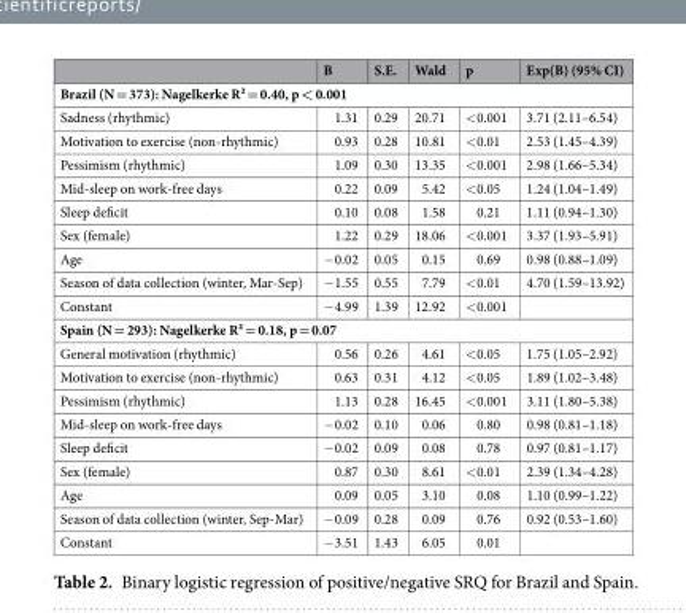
<table><thead><tr><td></td><td>B</td><td>S.E.</td><td>Wald</td><td>p</td><td>Exp(B) (95% CI)</td></tr></thead><tbody><tr><td colspan="6">Brazil (N = 373): Nagelkerke R² = 0.40, p &lt; 0.001</td></tr><tr><td>Sadness (rhythmic)</td><td>1.31</td><td>0.29</td><td>20.71</td><td>&lt;0.001</td><td>3.71 (2.11–6.54)</td></tr><tr><td>Motivation to exercise (non-rhythmic)</td><td>0.93</td><td>0.28</td><td>10.81</td><td>&lt;0.01</td><td>2.53 (1.45–4.39)</td></tr><tr><td>Pessimism (rhythmic)</td><td>1.09</td><td>0.30</td><td>13.35</td><td>&lt;0.001</td><td>2.98 (1.66–5.34)</td></tr><tr><td>Mid-sleep on work-free days</td><td>0.22</td><td>0.09</td><td>5.42</td><td>&lt;0.05</td><td>1.24 (1.04–1.49)</td></tr><tr><td>Sleep deficit</td><td>0.10</td><td>0.08</td><td>1.58</td><td>0.21</td><td>1.11 (0.94–1.30)</td></tr><tr><td>Sex (female)</td><td>1.22</td><td>0.29</td><td>18.06</td><td>&lt;0.001</td><td>3.37 (1.93–5.91)</td></tr><tr><td>Age</td><td>−0.02</td><td>0.05</td><td>0.15</td><td>0.69</td><td>0.98 (0.88–1.09)</td></tr><tr><td>Season of data collection (winter, Mar-Sep)</td><td>−1.55</td><td>0.55</td><td>7.79</td><td>&lt;0.01</td><td>4.70 (1.59–13.92)</td></tr><tr><td>Constant</td><td>−4.99</td><td>1.39</td><td>12.92</td><td>&lt;0.001</td><td></td></tr><tr><td colspan="6">Spain (N = 293): Nagelkerke R² = 0.18, p = 0.07</td></tr><tr><td>General motivation (rhythmic)</td><td>0.56</td><td>0.26</td><td>4.61</td><td>&lt;0.05</td><td>1.75 (1.05–2.92)</td></tr><tr><td>Motivation to exercise (non-rhythmic)</td><td>0.63</td><td>0.31</td><td>4.12</td><td>&lt;0.05</td><td>1.89 (1.02–3.48)</td></tr><tr><td>Pessimism (rhythmic)</td><td>1.13</td><td>0.28</td><td>16.45</td><td>&lt;0.001</td><td>3.11 (1.80–5.38)</td></tr><tr><td>Mid-sleep on work-free days</td><td>−0.02</td><td>0.10</td><td>0.06</td><td>0.80</td><td>0.98 (0.81–1.18)</td></tr><tr><td>Sleep deficit</td><td>−0.02</td><td>0.09</td><td>0.08</td><td>0.78</td><td>0.97 (0.81–1.17)</td></tr><tr><td>Sex (female)</td><td>0.87</td><td>0.30</td><td>8.61</td><td>&lt;0.01</td><td>2.39 (1.34–4.28)</td></tr><tr><td>Age</td><td>0.09</td><td>0.05</td><td>3.10</td><td>0.08</td><td>1.10 (0.99–1.22)</td></tr><tr><td>Season of data collection (winter, Sep-Mar)</td><td>−0.09</td><td>0.28</td><td>0.09</td><td>0.76</td><td>0.92 (0.53–1.60)</td></tr><tr><td>Constant</td><td>−3.51</td><td>1.43</td><td>6.05</td><td>0.01</td><td></td></tr></tbody></table>